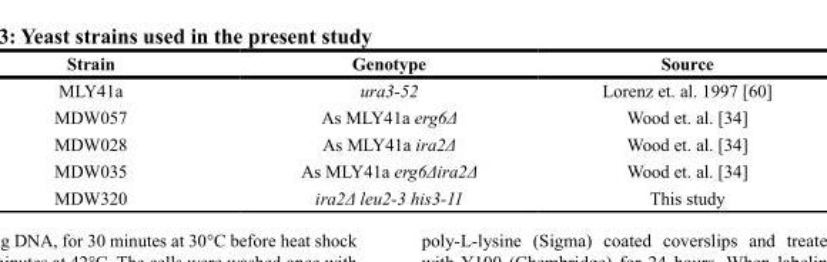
<table><thead><tr><td>Strain</td><td>Genotype</td><td>Source</td></tr></thead><tbody><tr><td>MLY41a</td><td>ura3-52</td><td>Lorenz et. al. 1997 [60]</td></tr><tr><td>MDW057</td><td>As MLY41a erg6Δ</td><td>Wood et. al. [34]</td></tr><tr><td>MDW028</td><td>As MLY41a ira2Δ</td><td>Wood et. al. [34]</td></tr><tr><td>MDW035</td><td>As MLY41a erg6Δira2Δ</td><td>Wood et. al. [34]</td></tr><tr><td>MDW320</td><td>ira2Δ leu2-3 his3-11</td><td>This study</td></tr></tbody></table>